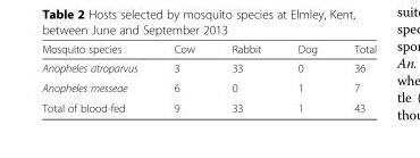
<table><thead><tr><td>Mosquito species</td><td>Cow</td><td>Rabbit</td><td>Dog</td><td>Total</td></tr></thead><tbody><tr><td>Anopheles atroparvus</td><td>3</td><td>33</td><td>0</td><td>36</td></tr><tr><td>Anopheles messeae</td><td>6</td><td>0</td><td>1</td><td>7</td></tr><tr><td>Total of blood-fed</td><td>9</td><td>33</td><td>1</td><td>43</td></tr></tbody></table>